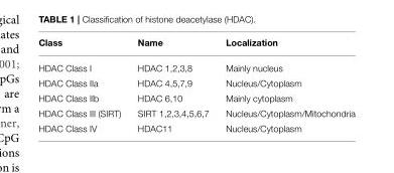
<table><thead><tr><td>Class</td><td>Name</td><td>Localization</td></tr></thead><tbody><tr><td>HDAC Class I</td><td>HDAC 1,2,3,8</td><td>Mainly nucleus</td></tr><tr><td>HDAC Class IIa</td><td>HDAC 4,5,7,9</td><td>Nucleus/Cytoplasm</td></tr><tr><td>HDAC Class IIb</td><td>HDAC 6,10</td><td>Mainly cytoplasm</td></tr><tr><td>HDAC Class III (SIRT)</td><td>SIRT 1,2,3,4,5,6,7</td><td>Nucleus/Cytoplasm/Mitochondria</td></tr><tr><td>HDAC Class IV</td><td>HDAC11</td><td>Nucleus/Cytoplasm</td></tr></tbody></table>